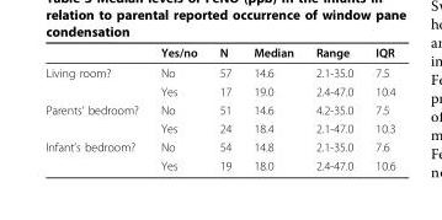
<table><thead><tr><td></td><td>Yes/no</td><td>N</td><td>Median</td><td>Range</td><td>IQR</td></tr></thead><tbody><tr><td rowspan="2">Living room?</td><td>No</td><td>57</td><td>14.6</td><td>2.1-35.0</td><td>7.5</td></tr><tr><td>Yes</td><td>17</td><td>19.0</td><td>2.4-47.0</td><td>10.4</td></tr><tr><td rowspan="2">Parents’ bedroom?</td><td>No</td><td>51</td><td>14.6</td><td>4.2-35.0</td><td>7.5</td></tr><tr><td>Yes</td><td>24</td><td>18.4</td><td>2.1-47.0</td><td>10.3</td></tr><tr><td rowspan="2">Infant’s bedroom?</td><td>No</td><td>54</td><td>14.8</td><td>2.1-35.0</td><td>7.6</td></tr><tr><td>Yes</td><td>19</td><td>18.0</td><td>2.4-47.0</td><td>10.6</td></tr></tbody></table>